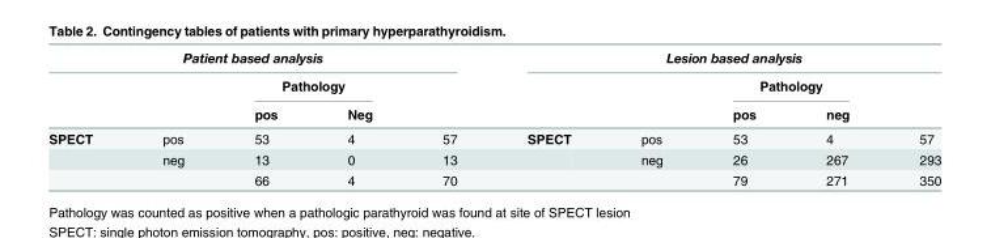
<table><thead><tr><td colspan="5">Patient based analysis</td><td colspan="5">Lesion based analysis</td></tr><tr><td rowspan="2"></td><td rowspan="2"></td><td colspan="2">Pathology</td><td rowspan="2"></td><td rowspan="2"></td><td rowspan="2"></td><td colspan="2">Pathology</td><td rowspan="2"></td></tr><tr><td>pos</td><td>Neg</td><td>pos</td><td>neg</td></tr></thead><tbody><tr><td rowspan="3">SPECT</td><td>pos</td><td>53</td><td>4</td><td>57</td><td>SPECT</td><td>pos</td><td>53</td><td>4</td><td>57</td></tr><tr><td>neg</td><td>13</td><td>0</td><td>13</td><td></td><td>neg</td><td>26</td><td>267</td><td>293</td></tr><tr><td></td><td>66</td><td>4</td><td>70</td><td></td><td></td><td>79</td><td>271</td><td>350</td></tr></tbody></table>